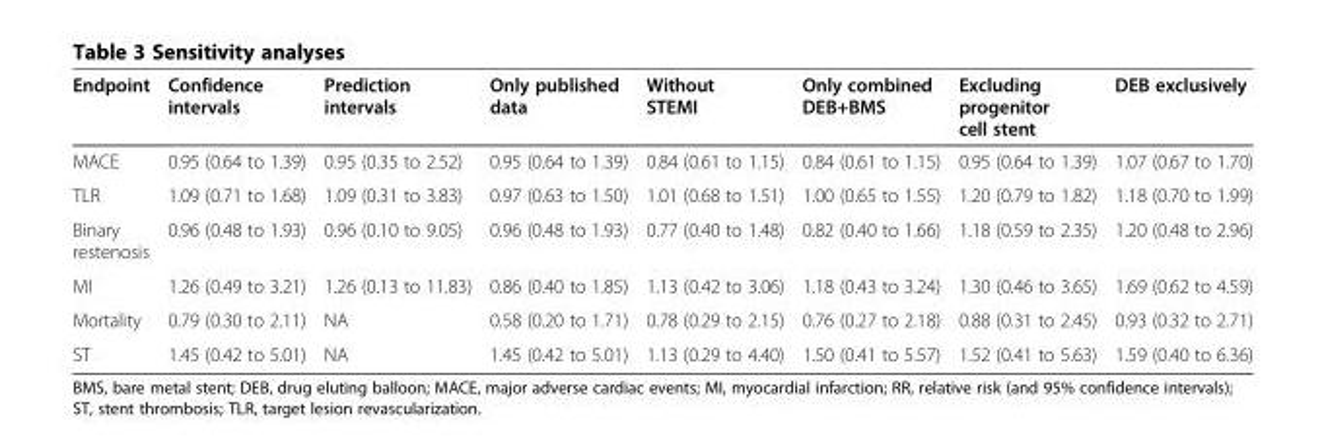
<table><thead><tr><td>Endpoint</td><td>Confidence intervals</td><td>Prediction intervals</td><td>Only published data</td><td>Without STEMI</td><td>Only combined DEB+BMS</td><td>Excluding progenitor cell stent</td><td>DEB exclusively</td></tr></thead><tbody><tr><td>MACE</td><td>0.95 (0.64 to 1.39)</td><td>0.95 (0.35 to 2.52)</td><td>0.95 (0.64 to 1.39)</td><td>0.84 (0.61 to 1.15)</td><td>0.84 (0.61 to 1.15)</td><td>0.95 (0.64 to 1.39)</td><td>1.07 (0.67 to 1.70)</td></tr><tr><td>TLR</td><td>1.09 (0.71 to 1.68)</td><td>1.09 (0.31 to 3.83)</td><td>0.97 (0.63 to 1.50)</td><td>1.01 (0.68 to 1.51)</td><td>1.00 (0.65 to 1.55)</td><td>1.20 (0.79 to 1.82)</td><td>1.18 (0.70 to 1.99)</td></tr><tr><td>Binary restenosis</td><td>0.96 (0.48 to 1.93)</td><td>0.96 (0.10 to 9.05)</td><td>0.96 (0.48 to 1.93)</td><td>0.77 (0.40 to 1.48)</td><td>0.82 (0.40 to 1.66)</td><td>1.18 (0.59 to 2.35)</td><td>1.20 (0.48 to 2.96)</td></tr><tr><td>MI</td><td>1.26 (0.49 to 3.21)</td><td>1.26 (0.13 to 11.83)</td><td>0.86 (0.40 to 1.85)</td><td>1.13 (0.42 to 3.06)</td><td>1.18 (0.43 to 3.24)</td><td>1.30 (0.46 to 3.65)</td><td>1.69 (0.62 to 4.59)</td></tr><tr><td>Mortality</td><td>0.79 (0.30 to 2.11)</td><td>NA</td><td>0.58 (0.20 to 1.71)</td><td>0.78 (0.29 to 2.15)</td><td>0.76 (0.27 to 2.18)</td><td>0.88 (0.31 to 2.45)</td><td>0.93 (0.32 to 2.71)</td></tr><tr><td>ST</td><td>1.45 (0.42 to 5.01)</td><td>NA</td><td>1.45 (0.42 to 5.01)</td><td>1.13 (0.29 to 4.40)</td><td>1.50 (0.41 to 5.57)</td><td>1.52 (0.41 to 5.63)</td><td>1.59 (0.40 to 6.36)</td></tr></tbody></table>